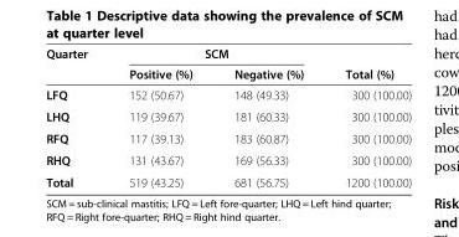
<table><thead><tr><td rowspan="2">Quarter</td><td colspan="2">SCM</td><td rowspan="2">Total (%)</td></tr><tr><td>Positive (%)</td><td>Negative (%)</td></tr></thead><tbody><tr><td>LFQ</td><td>152 (50.67)</td><td>148 (49.33)</td><td>300 (100.00)</td></tr><tr><td>LHQ</td><td>119 (39.67)</td><td>181 (60.33)</td><td>300 (100.00)</td></tr><tr><td>RFQ</td><td>117 (39.13)</td><td>183 (60.87)</td><td>300 (100.00)</td></tr><tr><td>RHQ</td><td>131 (43.67)</td><td>169 (56.33)</td><td>300 (100.00)</td></tr><tr><td>Total</td><td>519 (43.25)</td><td>681 (56.75)</td><td>1200 (100.00)</td></tr></tbody></table>